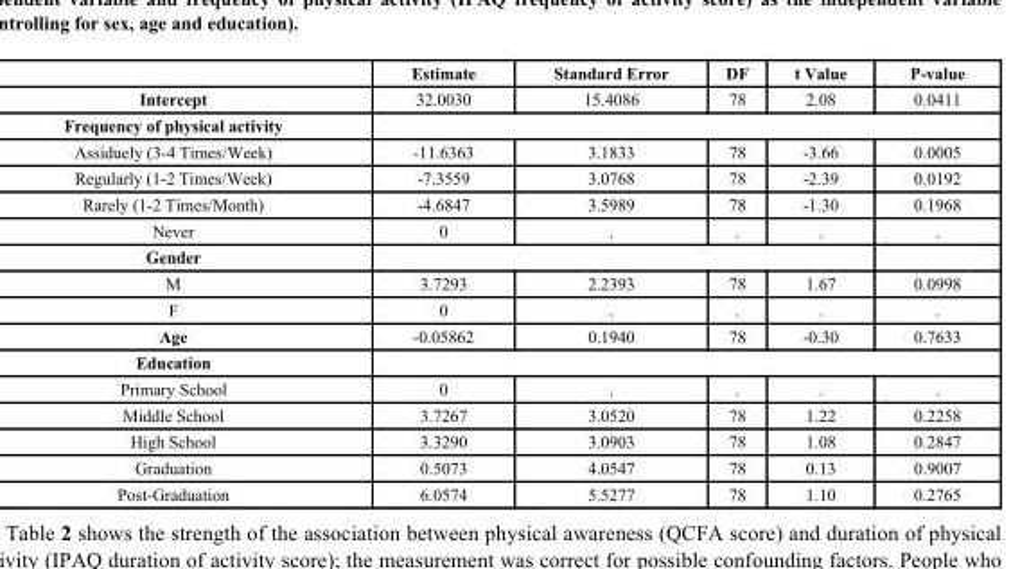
<table><thead><tr><td></td><td>Estimate</td><td>Standard Error</td><td>DF</td><td>t Value</td><td>P-value</td></tr></thead><tbody><tr><td>Intercept</td><td>32.0030</td><td>15.4086</td><td>78</td><td>2.08</td><td>0.0411</td></tr><tr><td colspan="6">Frequency of physical activity</td></tr><tr><td>Assiduely (3-4 Times/Week)</td><td>-11.6363</td><td>3.1833</td><td>78</td><td>-3.66</td><td>0.0005</td></tr><tr><td>Regularly (1-2 Times/Week)</td><td>-7.3559</td><td>3.0768</td><td>78</td><td>-2.39</td><td>0.0192</td></tr><tr><td>Rarely (1-2 Times/Month)</td><td>-4.6847</td><td>3.5989</td><td>78</td><td>-1.30</td><td>0.1968</td></tr><tr><td>Never</td><td>0</td><td>.</td><td>.</td><td>.</td><td>.</td></tr><tr><td colspan="6">Gender</td></tr><tr><td>M</td><td>3.7293</td><td>2.2393</td><td>78</td><td>1.67</td><td>0.0998</td></tr><tr><td>F</td><td>0</td><td>.</td><td>.</td><td>.</td><td>.</td></tr><tr><td>Age</td><td>-0.05862</td><td>0.1940</td><td>78</td><td>-0.30</td><td>0.7633</td></tr><tr><td colspan="6">Education</td></tr><tr><td>Primary School</td><td>0</td><td>.</td><td>.</td><td>.</td><td>.</td></tr><tr><td>Middle School</td><td>3.7267</td><td>3.0520</td><td>78</td><td>1.22</td><td>0.2258</td></tr><tr><td>High School</td><td>3.3290</td><td>3.0903</td><td>78</td><td>1.08</td><td>0.2847</td></tr><tr><td>Graduation</td><td>0.5073</td><td>4.0547</td><td>78</td><td>0.13</td><td>0.9007</td></tr><tr><td>Post-Graduation</td><td>6.0574</td><td>5.5277</td><td>78</td><td>1.10</td><td>0.2765</td></tr></tbody></table>